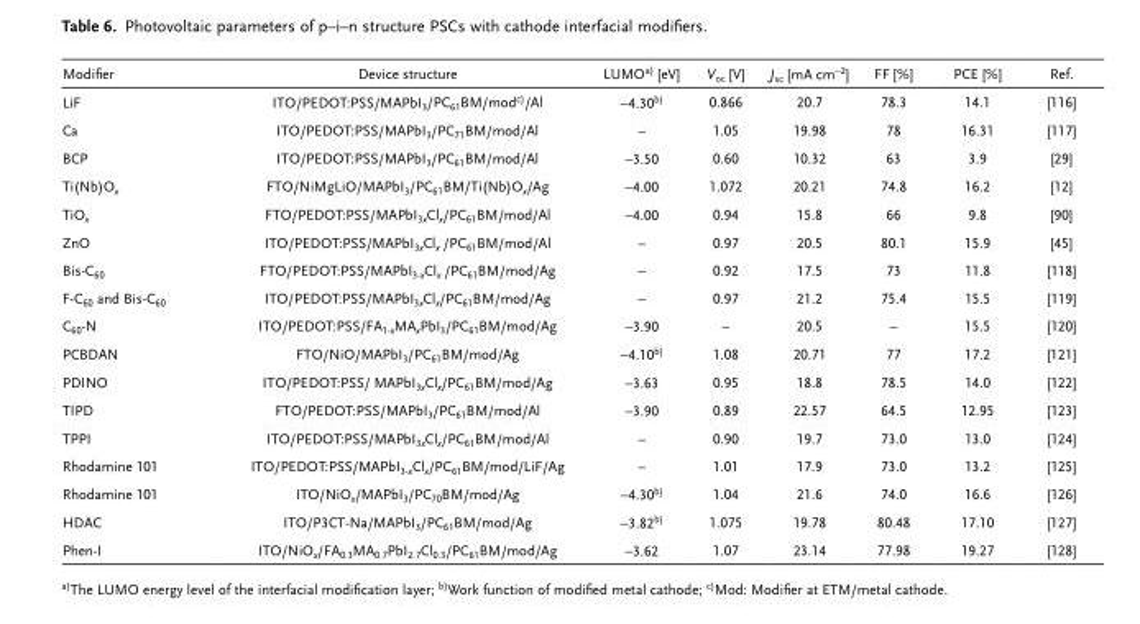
<table><thead><tr><td>Modifier</td><td>Device structure</td><td>LUMOa) [eV]</td><td>V<sub>oc</sub> [V]</td><td>J<sub>sc</sub> [mA cm<sup>−2</sup>]</td><td>FF [%]</td><td>PCE [%]</td><td>Ref.</td></tr></thead><tbody><tr><td>LiF</td><td>ITO/PEDOT:PSS/MAPbI<sub>3</sub>/PC<sub>61</sub>BM/modc)/Al</td><td>−4.30b)</td><td>0.866</td><td>20.7</td><td>78.3</td><td>14.1</td><td>[116]</td></tr><tr><td>Ca</td><td>ITO/PEDOT:PSS/MAPbI<sub>3</sub>/PC<sub>71</sub>BM/mod/Al</td><td>–</td><td>1.05</td><td>19.98</td><td>78</td><td>16.31</td><td>[117]</td></tr><tr><td>BCP</td><td>ITO/PEDOT:PSS/MAPbI<sub>3</sub>/PC<sub>61</sub>BM/mod/Al</td><td>−3.50</td><td>0.60</td><td>10.32</td><td>63</td><td>3.9</td><td>[29]</td></tr><tr><td>Ti(Nb)O<sub>x</sub></td><td>FTO/NiMgLiO/MAPbI<sub>3</sub>/PC<sub>61</sub>BM/Ti(Nb)O<sub>x</sub>/Ag</td><td>−4.00</td><td>1.072</td><td>20.21</td><td>74.8</td><td>16.2</td><td>[12]</td></tr><tr><td>TiO<sub>x</sub></td><td>FTO/PEDOT:PSS/MAPbI<sub>3x</sub>Cl<sub>x</sub>/PC<sub>61</sub>BM/mod/Al</td><td>−4.00</td><td>0.94</td><td>15.8</td><td>66</td><td>9.8</td><td>[90]</td></tr><tr><td>ZnO</td><td>ITO/PEDOT:PSS/MAPbI<sub>3x</sub>Cl<sub>x</sub> /PC<sub>61</sub>BM/mod/Al</td><td>–</td><td>0.97</td><td>20.5</td><td>80.1</td><td>15.9</td><td>[45]</td></tr><tr><td>Bis-C<sub>60</sub></td><td>FTO/PEDOT:PSS/MAPbI<sub>3-x</sub>Cl<sub>x</sub> /PC<sub>61</sub>BM/mod/Ag</td><td>–</td><td>0.92</td><td>17.5</td><td>73</td><td>11.8</td><td>[118]</td></tr><tr><td>F-C<sub>60</sub> and Bis-C<sub>60</sub></td><td>ITO/PEDOT:PSS/MAPbI<sub>3x</sub>Cl<sub>x</sub>/PC<sub>61</sub>BM/mod/Ag</td><td>–</td><td>0.97</td><td>21.2</td><td>75.4</td><td>15.5</td><td>[119]</td></tr><tr><td>C<sub>60</sub>-N</td><td>ITO/PEDOT:PSS/FA<sub>1-x</sub>MA<sub>x</sub>PbI<sub>3</sub>/PC<sub>61</sub>BM/mod/Ag</td><td>−3.90</td><td>–</td><td>20.5</td><td>–</td><td>15.5</td><td>[120]</td></tr><tr><td>PCBDAN</td><td>FTO/NiO/MAPbI<sub>3</sub>/PC<sub>61</sub>BM/mod/Ag</td><td>−4.10b)</td><td>1.08</td><td>20.71</td><td>77</td><td>17.2</td><td>[121]</td></tr><tr><td>PDINO</td><td>ITO/PEDOT:PSS/ MAPbI<sub>3x</sub>Cl<sub>x</sub>/PC<sub>61</sub>BM/mod/Ag</td><td>−3.63</td><td>0.95</td><td>18.8</td><td>78.5</td><td>14.0</td><td>[122]</td></tr><tr><td>TIPD</td><td>FTO/PEDOT:PSS/MAPbI<sub>3</sub>/PC<sub>61</sub>BM/mod/Al</td><td>−3.90</td><td>0.89</td><td>22.57</td><td>64.5</td><td>12.95</td><td>[123]</td></tr><tr><td>TPPI</td><td>ITO/PEDOT:PSS/MAPbI<sub>3x</sub>Cl<sub>x</sub>/PC<sub>61</sub>BM/mod/Al</td><td>–</td><td>0.90</td><td>19.7</td><td>73.0</td><td>13.0</td><td>[124]</td></tr><tr><td>Rhodamine 101</td><td>ITO/PEDOT:PSS/MAPbI<sub>3-x</sub>Cl<sub>x</sub>/PC<sub>61</sub>BM/mod/LiF/Ag</td><td>–</td><td>1.01</td><td>17.9</td><td>73.0</td><td>13.2</td><td>[125]</td></tr><tr><td>Rhodamine 101</td><td>ITO/NiO<sub>x</sub>/MAPbI<sub>3</sub>/PC<sub>70</sub>BM/mod/Ag</td><td>−4.30b)</td><td>1.04</td><td>21.6</td><td>74.0</td><td>16.6</td><td>[126]</td></tr><tr><td>HDAC</td><td>ITO/P3CT-Na/MAPbI<sub>3</sub>/PC<sub>61</sub>BM/mod/Ag</td><td>−3.82b)</td><td>1.075</td><td>19.78</td><td>80.48</td><td>17.10</td><td>[127]</td></tr><tr><td>Phen-I</td><td>ITO/NiO<sub>x</sub>/FA<sub>0.3</sub>MA<sub>0.7</sub>PbI<sub>2.7</sub>Cl<sub>0.3</sub>/PC<sub>61</sub>BM/mod/Ag</td><td>−3.62</td><td>1.07</td><td>23.14</td><td>77.98</td><td>19.27</td><td>[128]</td></tr></tbody></table>